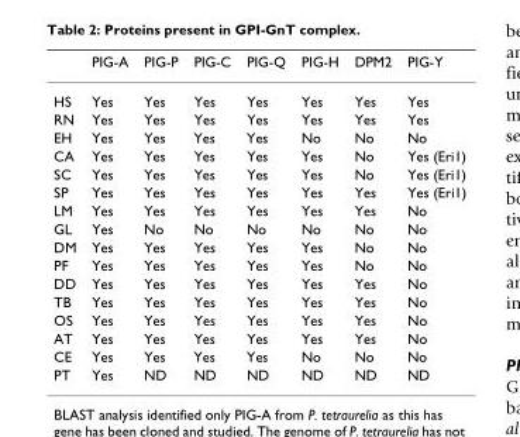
<table><thead><tr><td></td><td>PIG-A</td><td>PIG-P</td><td>PIG-C</td><td>PIG-Q</td><td>PIG-H</td><td>DPM2</td><td>PIG-Y</td></tr></thead><tbody><tr><td>HS</td><td>Yes</td><td>Yes</td><td>Yes</td><td>Yes</td><td>Yes</td><td>Yes</td><td>Yes</td></tr><tr><td>RN</td><td>Yes</td><td>Yes</td><td>Yes</td><td>Yes</td><td>Yes</td><td>Yes</td><td>Yes</td></tr><tr><td>EH</td><td>Yes</td><td>Yes</td><td>Yes</td><td>Yes</td><td>No</td><td>No</td><td>No</td></tr><tr><td>CA</td><td>Yes</td><td>Yes</td><td>Yes</td><td>Yes</td><td>Yes</td><td>No</td><td>Yes (Eri1)</td></tr><tr><td>SC</td><td>Yes</td><td>Yes</td><td>Yes</td><td>Yes</td><td>Yes</td><td>No</td><td>Yes (Eri1)</td></tr><tr><td>SP</td><td>Yes</td><td>Yes</td><td>Yes</td><td>Yes</td><td>Yes</td><td>Yes</td><td>Yes (Eri1)</td></tr><tr><td>LM</td><td>Yes</td><td>Yes</td><td>Yes</td><td>Yes</td><td>Yes</td><td>Yes</td><td>No</td></tr><tr><td>GL</td><td>Yes</td><td>No</td><td>No</td><td>No</td><td>No</td><td>No</td><td>No</td></tr><tr><td>DM</td><td>Yes</td><td>Yes</td><td>Yes</td><td>Yes</td><td>Yes</td><td>No</td><td>No</td></tr><tr><td>PF</td><td>Yes</td><td>Yes</td><td>Yes</td><td>Yes</td><td>Yes</td><td>No</td><td>No</td></tr><tr><td>DD</td><td>Yes</td><td>Yes</td><td>Yes</td><td>Yes</td><td>Yes</td><td>Yes</td><td>No</td></tr><tr><td>TB</td><td>Yes</td><td>Yes</td><td>Yes</td><td>Yes</td><td>Yes</td><td>Yes</td><td>No</td></tr><tr><td>OS</td><td>Yes</td><td>Yes</td><td>Yes</td><td>Yes</td><td>Yes</td><td>Yes</td><td>No</td></tr><tr><td>AT</td><td>Yes</td><td>Yes</td><td>Yes</td><td>Yes</td><td>Yes</td><td>Yes</td><td>No</td></tr><tr><td>CE</td><td>Yes</td><td>Yes</td><td>Yes</td><td>Yes</td><td>No</td><td>No</td><td>No</td></tr><tr><td>PT</td><td>Yes</td><td>ND</td><td>ND</td><td>ND</td><td>ND</td><td>ND</td><td>ND</td></tr></tbody></table>